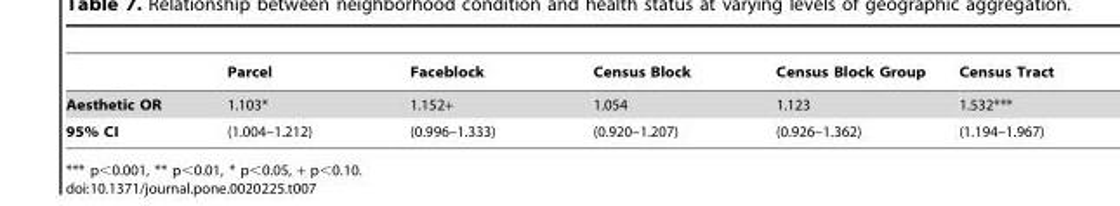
<table><thead><tr><td></td><td>Parcel</td><td>Faceblock</td><td>Census Block</td><td>Census Block Group</td><td>Census Tract</td></tr></thead><tbody><tr><td>Aesthetic OR</td><td>1.103*</td><td>1.152+</td><td>1.054</td><td>1.123</td><td>1.532***</td></tr><tr><td>95% CI</td><td>(1.004–1.212)</td><td>(0.996–1.333)</td><td>(0.920–1.207)</td><td>(0.926–1.362)</td><td>(1.194–1.967)</td></tr></tbody></table>